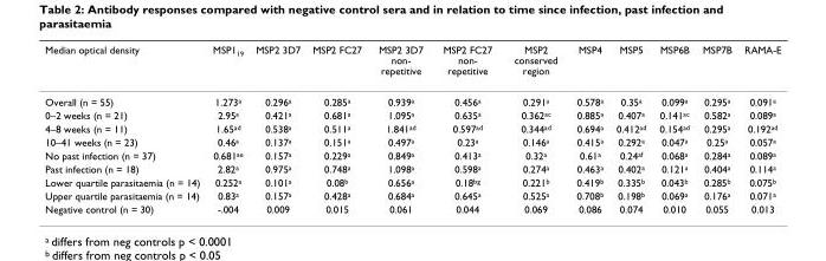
<table><thead><tr><td>Median optical density</td><td>MSP1<sub>19</sub></td><td>MSP2 3D7</td><td>MSP2 FC27</td><td>MSP2 3D7 non- repetitive</td><td>MSP2 FC27 non- repetitive</td><td>MSP2 conserved region</td><td>MSP4</td><td>MSP5</td><td>MSP6B</td><td>MSP7B</td><td>RAMA-E</td></tr></thead><tbody><tr><td>Overall (n = 55)</td><td>1.273<sup>a</sup></td><td>0.296<sup>a</sup></td><td>0.285<sup>a</sup></td><td>0.939<sup>a</sup></td><td>0.456<sup>a</sup></td><td>0.291<sup>a</sup></td><td>0.578<sup>a</sup></td><td>0.35<sup>a</sup></td><td>0.099<sup>a</sup></td><td>0.295<sup>a</sup></td><td>0.091<sup>a</sup></td></tr><tr><td>0–2 weeks (n = 21)</td><td>2.95<sup>a</sup></td><td>0.421<sup>a</sup></td><td>0.681<sup>a</sup></td><td>1.095<sup>a</sup></td><td>0.635<sup>a</sup></td><td>0.362<sup>ac</sup></td><td>0.885<sup>a</sup></td><td>0.407<sup>a</sup></td><td>0.141<sup>ac</sup></td><td>0.582<sup>a</sup></td><td>0.089<sup>a</sup></td></tr><tr><td>4–8 weeks (n = 11)</td><td>1.65<sup>ad</sup></td><td>0.538<sup>a</sup></td><td>0.511<sup>a</sup></td><td>1.841<sup>ad</sup></td><td>0.597<sup>ad</sup></td><td>0.344<sup>ad</sup></td><td>0.694<sup>a</sup></td><td>0.412<sup>ad</sup></td><td>0.154<sup>ad</sup></td><td>0.295<sup>a</sup></td><td>0.192<sup>ad</sup></td></tr><tr><td>10–41 weeks (n = 23)</td><td>0.46<sup>a</sup></td><td>0.137<sup>a</sup></td><td>0.151<sup>a</sup></td><td>0.497<sup>a</sup></td><td>0.23<sup>a</sup></td><td>0.146<sup>a</sup></td><td>0.415<sup>a</sup></td><td>0.292<sup>a</sup></td><td>0.047<sup>a</sup></td><td>0.25<sup>a</sup></td><td>0.057<sup>a</sup></td></tr><tr><td>No past infection (n = 37)</td><td>0.681<sup>ae</sup></td><td>0.157<sup>a</sup></td><td>0.229<sup>a</sup></td><td>0.849<sup>a</sup></td><td>0.413<sup>a</sup></td><td>0.32<sup>a</sup></td><td>0.61<sup>a</sup></td><td>0.24<sup>af</sup></td><td>0.068<sup>a</sup></td><td>0.284<sup>a</sup></td><td>0.089<sup>a</sup></td></tr><tr><td>Past infection (n = 18)</td><td>2.82<sup>a</sup></td><td>0.975<sup>a</sup></td><td>0.748<sup>a</sup></td><td>1.098<sup>a</sup></td><td>0.598<sup>a</sup></td><td>0.274<sup>a</sup></td><td>0.463<sup>a</sup></td><td>0.402<sup>a</sup></td><td>0.121<sup>a</sup></td><td>0.404<sup>a</sup></td><td>0.114<sup>a</sup></td></tr><tr><td>Lower quartile parasitaemia (n = 14)</td><td>0.252<sup>a</sup></td><td>0.101<sup>a</sup></td><td>0.08<sup>b</sup></td><td>0.656<sup>a</sup></td><td>0.18<sup>bg</sup></td><td>0.221<sup>b</sup></td><td>0.419<sup>b</sup></td><td>0.335<sup>b</sup></td><td>0.043<sup>b</sup></td><td>0.285<sup>b</sup></td><td>0.075<sup>b</sup></td></tr><tr><td>Upper quartile parasitaemia (n = 14)</td><td>0.83<sup>a</sup></td><td>0.157<sup>a</sup></td><td>0.428<sup>a</sup></td><td>0.684<sup>a</sup></td><td>0.645<sup>a</sup></td><td>0.525<sup>a</sup></td><td>0.708<sup>b</sup></td><td>0.198<sup>b</sup></td><td>0.069<sup>a</sup></td><td>0.176<sup>a</sup></td><td>0.071<sup>a</sup></td></tr><tr><td>Negative control (n = 30)</td><td>-.004</td><td>0.009</td><td>0.015</td><td>0.061</td><td>0.044</td><td>0.069</td><td>0.086</td><td>0.074</td><td>0.010</td><td>0.055</td><td>0.013</td></tr></tbody></table>